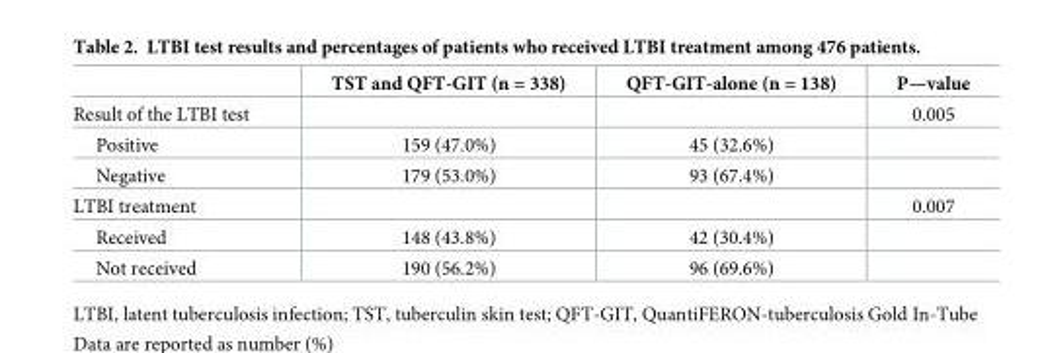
<table><thead><tr><td></td><td>TST and QFT-GIT (n = 338)</td><td>QFT-GIT-alone (n = 138)</td><td>P—value</td></tr></thead><tbody><tr><td>Result of the LTBI test</td><td></td><td></td><td>0.005</td></tr><tr><td>Positive</td><td>159 (47.0%)</td><td>45 (32.6%)</td><td></td></tr><tr><td>Negative</td><td>179 (53.0%)</td><td>93 (67.4%)</td><td></td></tr><tr><td>LTBI treatment</td><td></td><td></td><td>0.007</td></tr><tr><td>Received</td><td>148 (43.8%)</td><td>42 (30.4%)</td><td></td></tr><tr><td>Not received</td><td>190 (56.2%)</td><td>96 (69.6%)</td><td></td></tr></tbody></table>